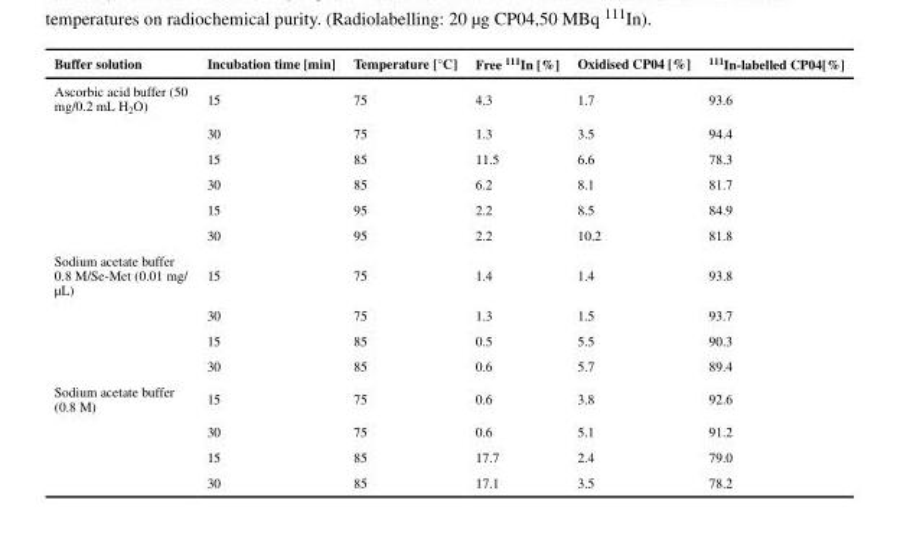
<table><thead><tr><td>Buffer solution</td><td>Incubation time [min]</td><td>Temperature [°C]</td><td>Free <sup>111</sup>In [%]</td><td>Oxidised CP04 [%]</td><td><sup>111</sup>In-labelled CP04[%]</td></tr></thead><tbody><tr><td rowspan="6">Ascorbic acid buffer (50 mg/0.2 mL H<sub>2</sub>O)</td><td>15</td><td>75</td><td>4.3</td><td>1.7</td><td>93.6</td></tr><tr><td>30</td><td>75</td><td>1.3</td><td>3.5</td><td>94.4</td></tr><tr><td>15</td><td>85</td><td>11.5</td><td>6.6</td><td>78.3</td></tr><tr><td>30</td><td>85</td><td>6.2</td><td>8.1</td><td>81.7</td></tr><tr><td>15</td><td>95</td><td>2.2</td><td>8.5</td><td>84.9</td></tr><tr><td>30</td><td>95</td><td>2.2</td><td>10.2</td><td>81.8</td></tr><tr><td rowspan="4">Sodium acetate buffer 0.8 M/Se-Met (0.01 mg/ μL)</td><td>15</td><td>75</td><td>1.4</td><td>1.4</td><td>93.8</td></tr><tr><td>30</td><td>75</td><td>1.3</td><td>1.5</td><td>93.7</td></tr><tr><td>15</td><td>85</td><td>0.5</td><td>5.5</td><td>90.3</td></tr><tr><td>30</td><td>85</td><td>0.6</td><td>5.7</td><td>89.4</td></tr><tr><td rowspan="4">Sodium acetate buffer (0.8 M)</td><td>15</td><td>75</td><td>0.6</td><td>3.8</td><td>92.6</td></tr><tr><td>30</td><td>75</td><td>0.6</td><td>5.1</td><td>91.2</td></tr><tr><td>15</td><td>85</td><td>17.7</td><td>2.4</td><td>79.0</td></tr><tr><td>30</td><td>85</td><td>17.1</td><td>3.5</td><td>78.2</td></tr></tbody></table>